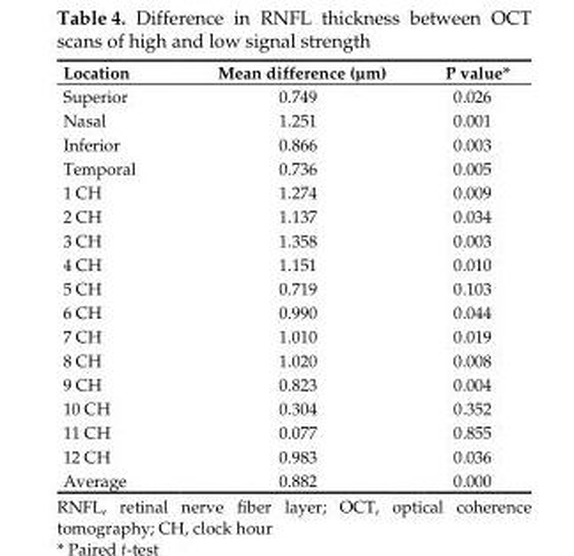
<table><thead><tr><td>Location</td><td>Mean difference (μm)</td><td>P value*</td></tr></thead><tbody><tr><td>Superior</td><td>0.749</td><td>0.026</td></tr><tr><td>Nasal</td><td>1.251</td><td>0.001</td></tr><tr><td>Inferior</td><td>0.866</td><td>0.003</td></tr><tr><td>Temporal</td><td>0.736</td><td>0.005</td></tr><tr><td>1 CH</td><td>1.274</td><td>0.009</td></tr><tr><td>2 CH</td><td>1.137</td><td>0.034</td></tr><tr><td>3 CH</td><td>1.358</td><td>0.003</td></tr><tr><td>4 CH</td><td>1.151</td><td>0.010</td></tr><tr><td>5 CH</td><td>0.719</td><td>0.103</td></tr><tr><td>6 CH</td><td>0.990</td><td>0.044</td></tr><tr><td>7 CH</td><td>1.010</td><td>0.019</td></tr><tr><td>8 CH</td><td>1.020</td><td>0.008</td></tr><tr><td>9 CH</td><td>0.823</td><td>0.004</td></tr><tr><td>10 CH</td><td>0.304</td><td>0.352</td></tr><tr><td>11 CH</td><td>0.077</td><td>0.855</td></tr><tr><td>12 CH</td><td>0.983</td><td>0.036</td></tr><tr><td>Average</td><td>0.882</td><td>0.000</td></tr></tbody></table>